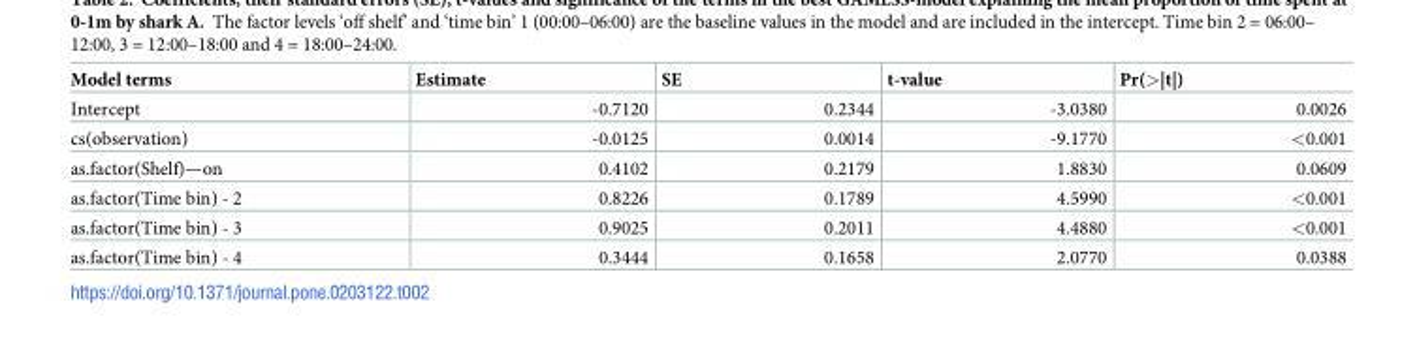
<table><thead><tr><td>Model terms</td><td>Estimate</td><td>SE</td><td>t-value</td><td>Pr(&gt;|t|)</td></tr></thead><tbody><tr><td>Intercept</td><td>-0.7120</td><td>0.2344</td><td>-3.0380</td><td>0.0026</td></tr><tr><td>cs(observation)</td><td>-0.0125</td><td>0.0014</td><td>-9.1770</td><td>&lt;0.001</td></tr><tr><td>as.factor(Shelf)—on</td><td>0.4102</td><td>0.2179</td><td>1.8830</td><td>0.0609</td></tr><tr><td>as.factor(Time bin) - 2</td><td>0.8226</td><td>0.1789</td><td>4.5990</td><td>&lt;0.001</td></tr><tr><td>as.factor(Time bin) - 3</td><td>0.9025</td><td>0.2011</td><td>4.4880</td><td>&lt;0.001</td></tr><tr><td>as.factor(Time bin) - 4</td><td>0.3444</td><td>0.1658</td><td>2.0770</td><td>0.0388</td></tr></tbody></table>